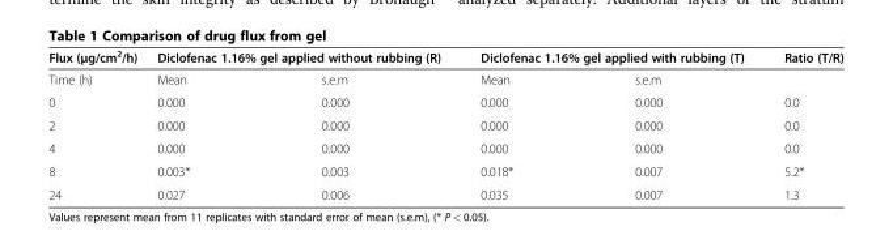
<table><thead><tr><td rowspan="2">Flux (μg/cm<sup>2</sup>/h) Time (h)</td><td colspan="2">Diclofenac 1.16% gel applied without rubbing (R)</td><td colspan="2">Diclofenac 1.16% gel applied with rubbing (T)</td><td rowspan="2">Ratio (T/R)</td></tr><tr><td>Mean</td><td>s.e.m</td><td>Mean</td><td>s.e.m</td></tr></thead><tbody><tr><td>0</td><td>0.000</td><td>0.000</td><td>0.000</td><td>0.000</td><td>0.0</td></tr><tr><td>2</td><td>0.000</td><td>0.000</td><td>0.000</td><td>0.000</td><td>0.0</td></tr><tr><td>4</td><td>0.000</td><td>0.000</td><td>0.000</td><td>0.000</td><td>0.0</td></tr><tr><td>8</td><td>0.003*</td><td>0.003</td><td>0.018*</td><td>0.007</td><td>5.2*</td></tr><tr><td>24</td><td>0.027</td><td>0.006</td><td>0.035</td><td>0.007</td><td>1.3</td></tr></tbody></table>